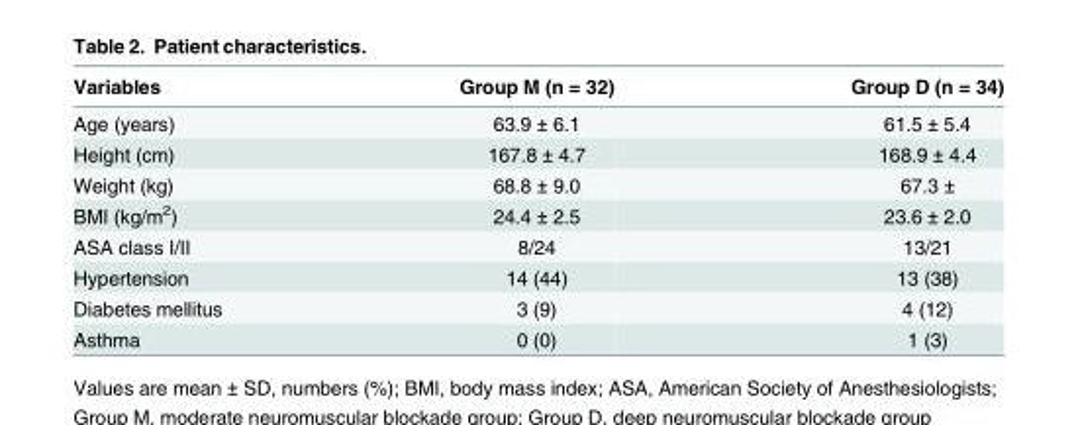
<table><thead><tr><td>Variables</td><td>Group M (n = 32)</td><td>Group D (n = 34)</td></tr></thead><tbody><tr><td>Age (years)</td><td>63.9 ± 6.1</td><td>61.5 ± 5.4</td></tr><tr><td>Height (cm)</td><td>167.8 ± 4.7</td><td>168.9 ± 4.4</td></tr><tr><td>Weight (kg)</td><td>68.8 ± 9.0</td><td>67.3 ±</td></tr><tr><td>BMI (kg/m<sup>2</sup>)</td><td>24.4 ± 2.5</td><td>23.6 ± 2.0</td></tr><tr><td>ASA class I/II</td><td>8/24</td><td>13/21</td></tr><tr><td>Hypertension</td><td>14 (44)</td><td>13 (38)</td></tr><tr><td>Diabetes mellitus</td><td>3 (9)</td><td>4 (12)</td></tr><tr><td>Asthma</td><td>0 (0)</td><td>1 (3)</td></tr></tbody></table>